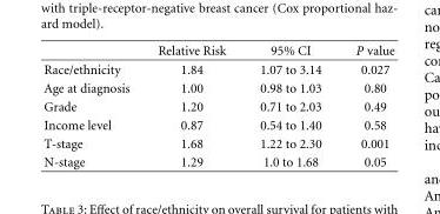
<table><thead><tr><td></td><td>Relative Risk</td><td>95% CI</td><td>P value</td></tr></thead><tbody><tr><td>Race/ethnicity</td><td>1.84</td><td>1.07 to 3.14</td><td>0.027</td></tr><tr><td>Age at diagnosis</td><td>1.00</td><td>0.98 to 1.03</td><td>0.80</td></tr><tr><td>Grade</td><td>1.20</td><td>0.71 to 2.03</td><td>0.49</td></tr><tr><td>Income level</td><td>0.87</td><td>0.54 to 1.40</td><td>0.58</td></tr><tr><td>T-stage</td><td>1.68</td><td>1.22 to 2.30</td><td>0.001</td></tr><tr><td>N-stage</td><td>1.29</td><td>1.0 to 1.68</td><td>0.05</td></tr></tbody></table>